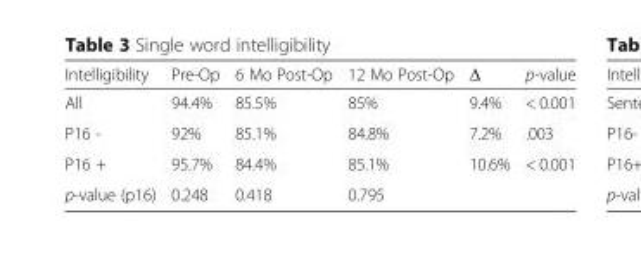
<table><thead><tr><td>Intelligibility</td><td>Pre-Op</td><td>6 Mo Post-Op</td><td>12 Mo Post-Op</td><td>Δ</td><td>p-value</td></tr></thead><tbody><tr><td>All</td><td>94.4%</td><td>85.5%</td><td>85%</td><td>9.4%</td><td>&lt; 0.001</td></tr><tr><td>P16 -</td><td>92%</td><td>85.1%</td><td>84.8%</td><td>7.2%</td><td>.003</td></tr><tr><td>P16 +</td><td>95.7%</td><td>84.4%</td><td>85.1%</td><td>10.6%</td><td>&lt; 0.001</td></tr><tr><td>p-value (p16)</td><td>0.248</td><td>0.418</td><td>0.795</td><td></td><td></td></tr></tbody></table>